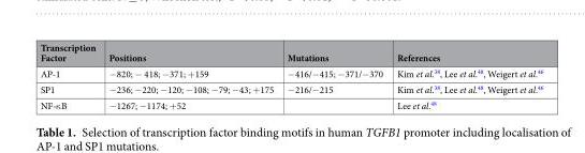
<table><thead><tr><td>Transcription Factor</td><td>Positions</td><td>Mutations</td><td>References</td></tr></thead><tbody><tr><td>AP-1</td><td>−820; − 418; −371; +159</td><td>−416/−415; −371/−370</td><td>Kim et al.<sup>38</sup>, Lee et al.<sup>48</sup>, Weigert et al.<sup>46</sup></td></tr><tr><td>SP1</td><td>−236; −220; −120; −108; −79; −43; +175</td><td>−216/−215</td><td>Kim et al.<sup>38</sup>, Lee et al.<sup>48</sup>, Weigert et al.<sup>46</sup></td></tr><tr><td>NF-κB</td><td>−1267; −1174; +52</td><td></td><td>Lee et al.<sup>48</sup></td></tr></tbody></table>